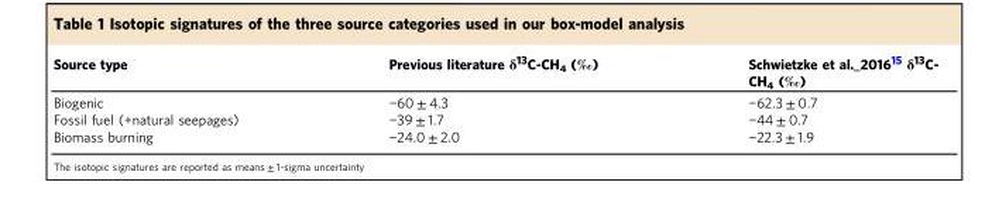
<table><thead><tr><td>Source type</td><td>Previous literature δ<sup>13</sup>C-CH<sub>4</sub> (‰)</td><td>Schwietzke et al._2016<sup>15</sup> δ<sup>13</sup>C- CH<sub>4</sub> (‰)</td></tr></thead><tbody><tr><td>Biogenic</td><td>−60 ± 4.3</td><td>−62.3 ± 0.7</td></tr><tr><td>Fossil fuel (+natural seepages)</td><td>−39 ± 1.7</td><td>−44 ± 0.7</td></tr><tr><td>Biomass burning</td><td>−24.0 ± 2.0</td><td>−22.3 ± 1.9</td></tr></tbody></table>